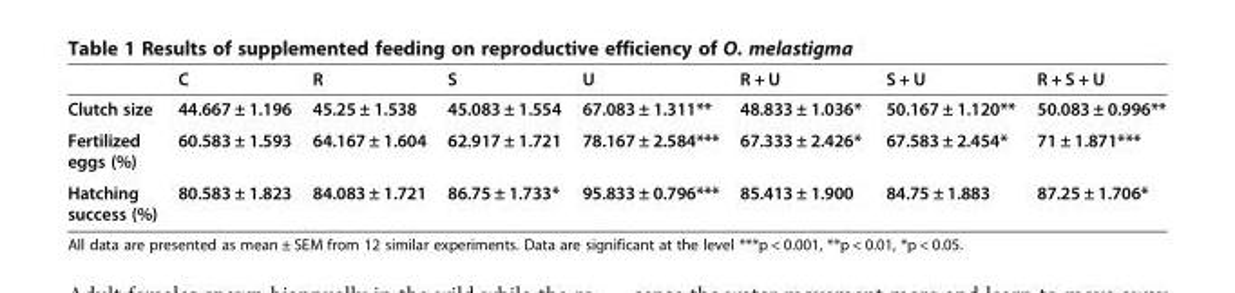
<table><thead><tr><td></td><td>C</td><td>R</td><td>S</td><td>U</td><td>R + U</td><td>S + U</td><td>R + S + U</td></tr></thead><tbody><tr><td>Clutch size</td><td>44.667 ± 1.196</td><td>45.25 ± 1.538</td><td>45.083 ± 1.554</td><td>67.083 ± 1.311**</td><td>48.833 ± 1.036*</td><td>50.167 ± 1.120**</td><td>50.083 ± 0.996**</td></tr><tr><td>Fertilized eggs (%)</td><td>60.583 ± 1.593</td><td>64.167 ± 1.604</td><td>62.917 ± 1.721</td><td>78.167 ± 2.584***</td><td>67.333 ± 2.426*</td><td>67.583 ± 2.454*</td><td>71 ± 1.871***</td></tr><tr><td>Hatching success (%)</td><td>80.583 ± 1.823</td><td>84.083 ± 1.721</td><td>86.75 ± 1.733*</td><td>95.833 ± 0.796***</td><td>85.413 ± 1.900</td><td>84.75 ± 1.883</td><td>87.25 ± 1.706*</td></tr></tbody></table>